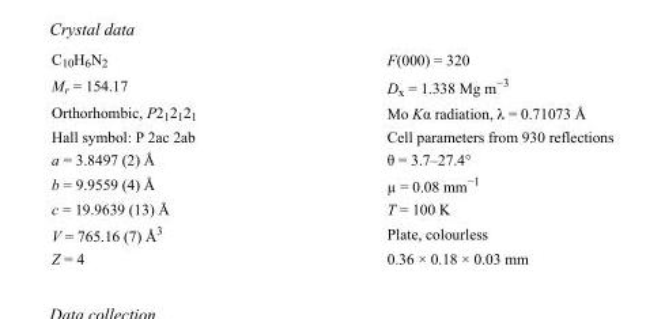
<table><tbody><tr><td>C<sub>10</sub>H<sub>6</sub>N<sub>2</sub></td><td>F(000) = 320</td></tr><tr><td>M<sub>r</sub> = 154.17</td><td>D<sub>x</sub> = 1.338 Mg m<sup>−3</sup></td></tr><tr><td>Orthorhombic, P2<sub>1</sub>2<sub>1</sub>2<sub>1</sub></td><td>Mo Kα radiation, λ = 0.71073 Å</td></tr><tr><td>Hall symbol: P 2ac 2ab</td><td>Cell parameters from 930 reflections</td></tr><tr><td>a = 3.8497 (2) Å</td><td>θ = 3.7–27.4°</td></tr><tr><td>b = 9.9559 (4) Å</td><td>µ = 0.08 mm<sup>−1</sup></td></tr><tr><td>c = 19.9639 (13) Å</td><td>T = 100 K</td></tr><tr><td>V = 765.16 (7) Å<sup>3</sup></td><td>Plate, colourless</td></tr><tr><td>Z = 4</td><td>0.36 × 0.18 × 0.03 mm</td></tr></tbody></table>